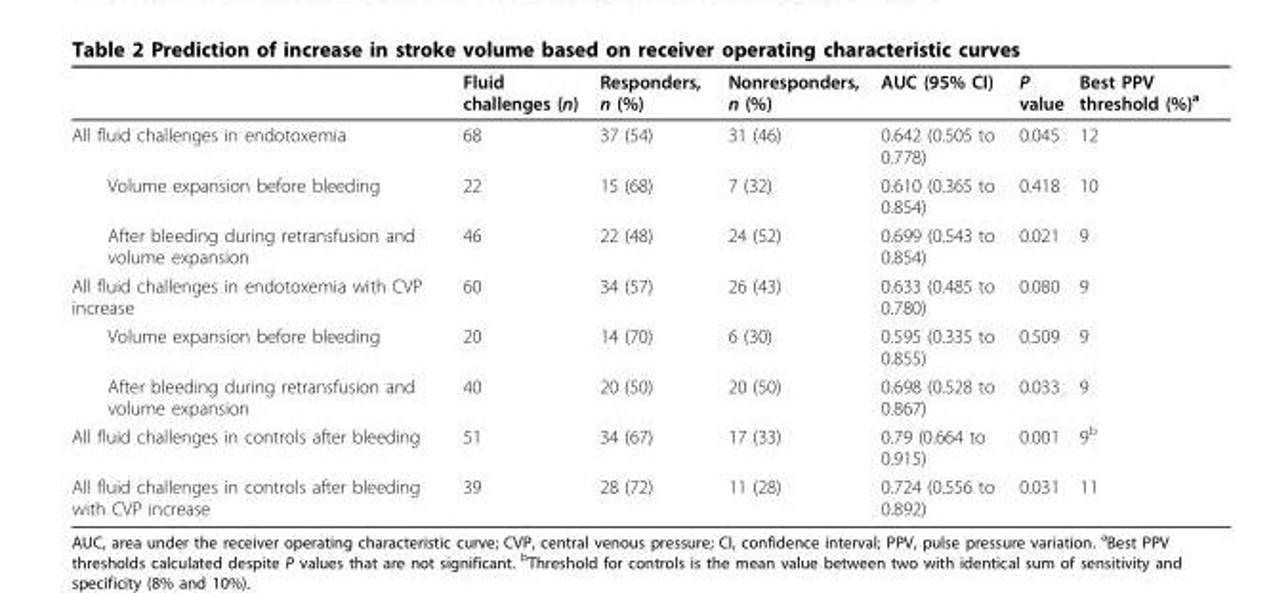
<table><thead><tr><td></td><td>Fluid challenges (n)</td><td>Responders, n (%)</td><td>Nonresponders, n (%)</td><td>AUC (95% CI)</td><td>P value</td><td>Best PPV threshold (%)<sup>a</sup></td></tr></thead><tbody><tr><td>All fluid challenges in endotoxemia</td><td>68</td><td>37 (54)</td><td>31 (46)</td><td>0.642 (0.505 to 0.778)</td><td>0.045</td><td>12</td></tr><tr><td>Volume expansion before bleeding</td><td>22</td><td>15 (68)</td><td>7 (32)</td><td>0.610 (0.365 to 0.854)</td><td>0.418</td><td>10</td></tr><tr><td>After bleeding during retransfusion and volume expansion</td><td>46</td><td>22 (48)</td><td>24 (52)</td><td>0.699 (0.543 to 0.854)</td><td>0.021</td><td>9</td></tr><tr><td>All fluid challenges in endotoxemia with CVP increase</td><td>60</td><td>34 (57)</td><td>26 (43)</td><td>0.633 (0.485 to 0.780)</td><td>0.080</td><td>9</td></tr><tr><td>Volume expansion before bleeding</td><td>20</td><td>14 (70)</td><td>6 (30)</td><td>0.595 (0.335 to 0.855)</td><td>0.509</td><td>9</td></tr><tr><td>After bleeding during retransfusion and volume expansion</td><td>40</td><td>20 (50)</td><td>20 (50)</td><td>0.698 (0.528 to 0.867)</td><td>0.033</td><td>9</td></tr><tr><td>All fluid challenges in controls after bleeding</td><td>51</td><td>34 (67)</td><td>17 (33)</td><td>0.79 (0.664 to 0.915)</td><td>0.001</td><td>9<sup>b</sup></td></tr><tr><td>All fluid challenges in controls after bleeding with CVP increase</td><td>39</td><td>28 (72)</td><td>11 (28)</td><td>0.724 (0.556 to 0.892)</td><td>0.031</td><td>11</td></tr></tbody></table>